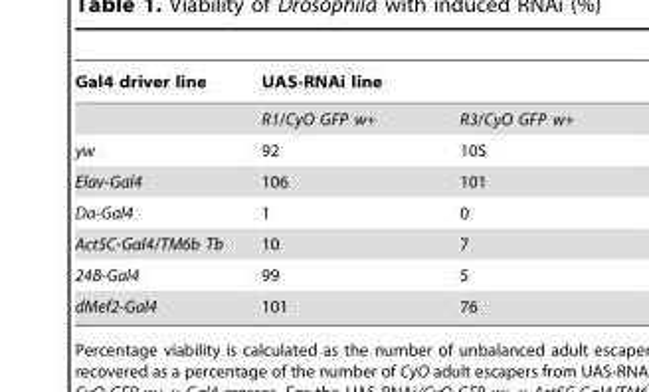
<table><thead><tr><td rowspan="2">Gal4 driver line</td><td colspan="2">UAS-RNAi line</td></tr><tr><td>R1/CyO GFP w+</td><td>R3/CyO GFP w+</td></tr></thead><tbody><tr><td>yw</td><td>92</td><td>105</td></tr><tr><td>Elav-Gal4</td><td>106</td><td>101</td></tr><tr><td>Da-Gal4</td><td>1</td><td>0</td></tr><tr><td>Act5C-Gal4/TM6b Tb</td><td>10</td><td>7</td></tr><tr><td>24B-Gal4</td><td>99</td><td>5</td></tr><tr><td>dMef2-Gal4</td><td>101</td><td>76</td></tr></tbody></table>